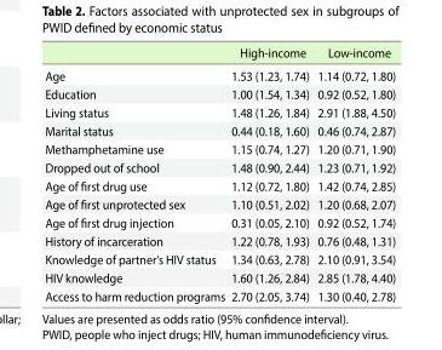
<table><thead><tr><td></td><td>High-income</td><td>Low-income</td></tr></thead><tbody><tr><td>Age</td><td>1.53 (1.23, 1.74)</td><td>1.14 (0.72, 1.80)</td></tr><tr><td>Education</td><td>1.00 (1.54, 1.34)</td><td>0.92 (0.52, 1.80)</td></tr><tr><td>Living status</td><td>1.48 (1.26, 1.84)</td><td>2.91 (1.88, 4.50)</td></tr><tr><td>Marital status</td><td>0.44 (0.18, 1.60)</td><td>0.46 (0.74, 2.87)</td></tr><tr><td>Methamphetamine use</td><td>1.15 (0.74, 1.27)</td><td>1.20 (0.71, 1.90)</td></tr><tr><td>Dropped out of school</td><td>1.48 (0.90, 2.44)</td><td>1.23 (0.71, 1.92)</td></tr><tr><td>Age of first drug use</td><td>1.12 (0.72, 1.80)</td><td>1.42 (0.74, 2.85)</td></tr><tr><td>Age of first unprotected sex</td><td>1.10 (0.51, 2.02)</td><td>1.20 (0.68, 2.07)</td></tr><tr><td>Age of first drug injection</td><td>0.31 (0.05, 2.10)</td><td>0.92 (0.52, 1.74)</td></tr><tr><td>History of incarceration</td><td>1.22 (0.78, 1.93)</td><td>0.76 (0.48, 1.31)</td></tr><tr><td>Knowledge of partner’s HIV status</td><td>1.34 (0.63, 2.78)</td><td>2.10 (0.91, 3.54)</td></tr><tr><td>HIV knowledge</td><td>1.60 (1.26, 2.84)</td><td>2.85 (1.78, 4.40)</td></tr><tr><td>Access to harm reduction programs</td><td>2.70 (2.05, 3.74)</td><td>1.30 (0.40, 2.78)</td></tr></tbody></table>